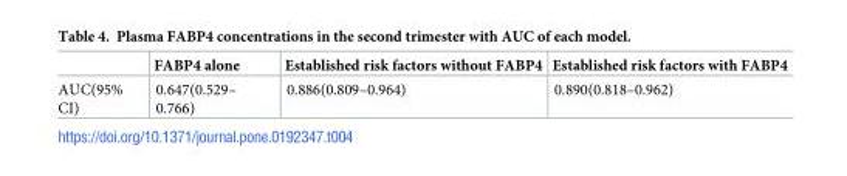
<table><thead><tr><td></td><td>FABP4 alone</td><td>Established risk factors without FABP4</td><td>Established risk factors with FABP4</td></tr></thead><tbody><tr><td>AUC(95% CI)</td><td>0.647(0.529– 0.766)</td><td>0.886(0.809–0.964)</td><td>0.890(0.818–0.962)</td></tr></tbody></table>